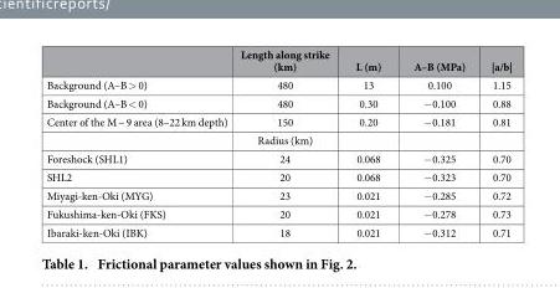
<table><thead><tr><td></td><td>Length along strike (km)</td><td>L (m)</td><td>A–B (MPa)</td><td>|a/b|</td></tr></thead><tbody><tr><td>Background (A–B &gt; 0)</td><td>480</td><td>13</td><td>0.100</td><td>1.15</td></tr><tr><td>Background (A–B &lt; 0)</td><td>480</td><td>0.30</td><td>− 0.100</td><td>0.88</td></tr><tr><td rowspan="2">Center of the M ~ 9 area (8–22 km depth)</td><td>150</td><td>0.20</td><td>− 0.181</td><td>0.81</td></tr><tr><td>Radius (km)</td><td></td><td></td><td></td></tr><tr><td>Foreshock (SHL1)</td><td>24</td><td>0.068</td><td>− 0.325</td><td>0.70</td></tr><tr><td>SHL2</td><td>20</td><td>0.068</td><td>− 0.323</td><td>0.70</td></tr><tr><td>Miyagi-ken-Oki (MYG)</td><td>23</td><td>0.021</td><td>− 0.285</td><td>0.72</td></tr><tr><td>Fukushima-ken-Oki (FKS)</td><td>20</td><td>0.021</td><td>− 0.278</td><td>0.73</td></tr><tr><td>Ibaraki-ken-Oki (IBK)</td><td>18</td><td>0.021</td><td>− 0.312</td><td>0.71</td></tr></tbody></table>